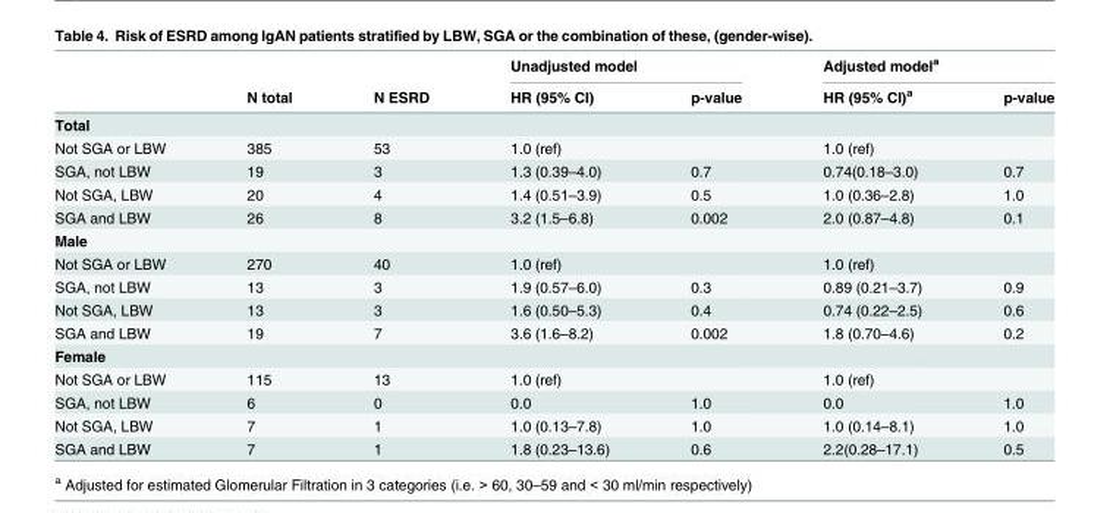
<table><thead><tr><td rowspan="2"></td><td rowspan="2">N total</td><td rowspan="2">N ESRD</td><td colspan="2">Unadjusted model</td><td colspan="2">Adjusted model<sup>a</sup></td></tr><tr><td>HR (95% CI)</td><td>p-value</td><td>HR (95% CI)<sup>a</sup></td><td>p-value</td></tr></thead><tbody><tr><td colspan="7">Total</td></tr><tr><td>Not SGA or LBW</td><td>385</td><td>53</td><td>1.0 (ref)</td><td></td><td>1.0 (ref)</td><td></td></tr><tr><td>SGA, not LBW</td><td>19</td><td>3</td><td>1.3 (0.39–4.0)</td><td>0.7</td><td>0.74(0.18–3.0)</td><td>0.7</td></tr><tr><td>Not SGA, LBW</td><td>20</td><td>4</td><td>1.4 (0.51–3.9)</td><td>0.5</td><td>1.0 (0.36–2.8)</td><td>1.0</td></tr><tr><td>SGA and LBW</td><td>26</td><td>8</td><td>3.2 (1.5–6.8)</td><td>0.002</td><td>2.0 (0.87–4.8)</td><td>0.1</td></tr><tr><td colspan="7">Male</td></tr><tr><td>Not SGA or LBW</td><td>270</td><td>40</td><td>1.0 (ref)</td><td></td><td>1.0 (ref)</td><td></td></tr><tr><td>SGA, not LBW</td><td>13</td><td>3</td><td>1.9 (0.57–6.0)</td><td>0.3</td><td>0.89 (0.21–3.7)</td><td>0.9</td></tr><tr><td>Not SGA, LBW</td><td>13</td><td>3</td><td>1.6 (0.50–5.3)</td><td>0.4</td><td>0.74 (0.22–2.5)</td><td>0.6</td></tr><tr><td>SGA and LBW</td><td>19</td><td>7</td><td>3.6 (1.6–8.2)</td><td>0.002</td><td>1.8 (0.70–4.6)</td><td>0.2</td></tr><tr><td colspan="7">Female</td></tr><tr><td>Not SGA or LBW</td><td>115</td><td>13</td><td>1.0 (ref)</td><td></td><td>1.0 (ref)</td><td></td></tr><tr><td>SGA, not LBW</td><td>6</td><td>0</td><td>0.0</td><td>1.0</td><td>0.0</td><td>1.0</td></tr><tr><td>Not SGA, LBW</td><td>7</td><td>1</td><td>1.0 (0.13–7.8)</td><td>1.0</td><td>1.0 (0.14–8.1)</td><td>1.0</td></tr><tr><td>SGA and LBW</td><td>7</td><td>1</td><td>1.8 (0.23–13.6)</td><td>0.6</td><td>2.2(0.28–17.1)</td><td>0.5</td></tr></tbody></table>